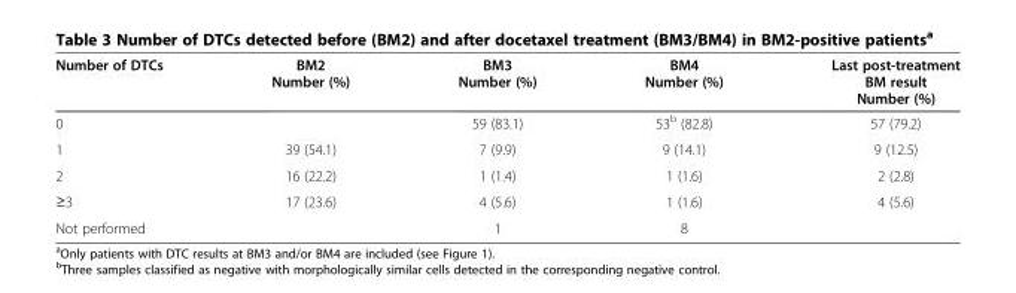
<table><thead><tr><td>Number of DTCs</td><td>BM2 Number (%)</td><td>BM3 Number (%)</td><td>BM4 Number (%)</td><td>Last post-treatment BM result Number (%)</td></tr></thead><tbody><tr><td>0</td><td></td><td>59 (83.1)</td><td>53<sup>b</sup> (82.8)</td><td>57 (79.2)</td></tr><tr><td>1</td><td>39 (54.1)</td><td>7 (9.9)</td><td>9 (14.1)</td><td>9 (12.5)</td></tr><tr><td>2</td><td>16 (22.2)</td><td>1 (1.4)</td><td>1 (1.6)</td><td>2 (2.8)</td></tr><tr><td>≥3</td><td>17 (23.6)</td><td>4 (5.6)</td><td>1 (1.6)</td><td>4 (5.6)</td></tr><tr><td>Not performed</td><td></td><td>1</td><td>8</td><td></td></tr></tbody></table>